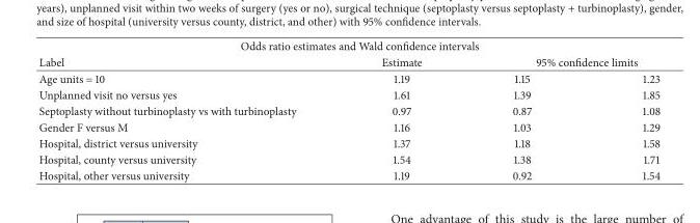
<table><thead><tr><td colspan="4">Odds ratio estimates and Wald confidence intervals</td></tr><tr><td rowspan="2">Label Age units = 10</td><td rowspan="2">Estimate 1.19</td><td colspan="2">95% confidence limits</td></tr><tr><td>1.15</td><td>1.23</td></tr></thead><tbody><tr><td>Unplanned visit no versus yes</td><td>1.61</td><td>1.39</td><td>1.85</td></tr><tr><td>Septoplasty without turbinoplasty vs with turbinoplasty</td><td>0.97</td><td>0.87</td><td>1.08</td></tr><tr><td>Gender F versus M</td><td>1.16</td><td>1.03</td><td>1.29</td></tr><tr><td>Hospital, district versus university</td><td>1.37</td><td>1.18</td><td>1.58</td></tr><tr><td>Hospital, county versus university</td><td>1.54</td><td>1.38</td><td>1.71</td></tr><tr><td>Hospital, other versus university</td><td>1.19</td><td>0.92</td><td>1.54</td></tr></tbody></table>